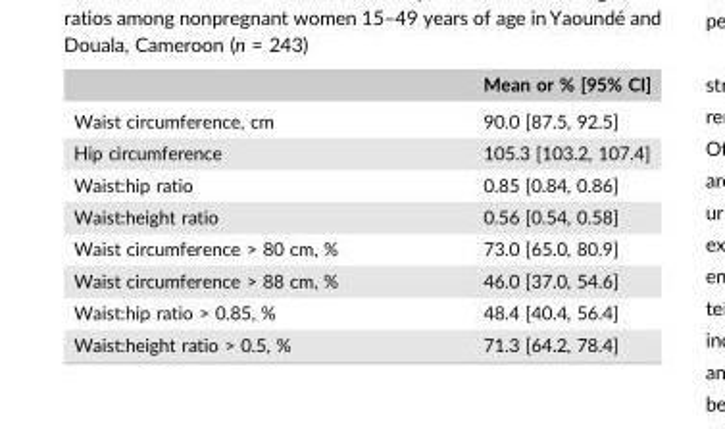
<table><thead><tr><td></td><td>Mean or % [95% CI]</td></tr></thead><tbody><tr><td>Waist circumference, cm</td><td>90.0 [87.5, 92.5]</td></tr><tr><td>Hip circumference</td><td>105.3 [103.2, 107.4]</td></tr><tr><td>Waist:hip ratio</td><td>0.85 [0.84, 0.86]</td></tr><tr><td>Waist:height ratio</td><td>0.56 [0.54, 0.58]</td></tr><tr><td>Waist circumference &gt; 80 cm, %</td><td>73.0 [65.0, 80.9]</td></tr><tr><td>Waist circumference &gt; 88 cm, %</td><td>46.0 [37.0, 54.6]</td></tr><tr><td>Waist:hip ratio &gt; 0.85, %</td><td>48.4 [40.4, 56.4]</td></tr><tr><td>Waist:height ratio &gt; 0.5, %</td><td>71.3 [64.2, 78.4]</td></tr></tbody></table>